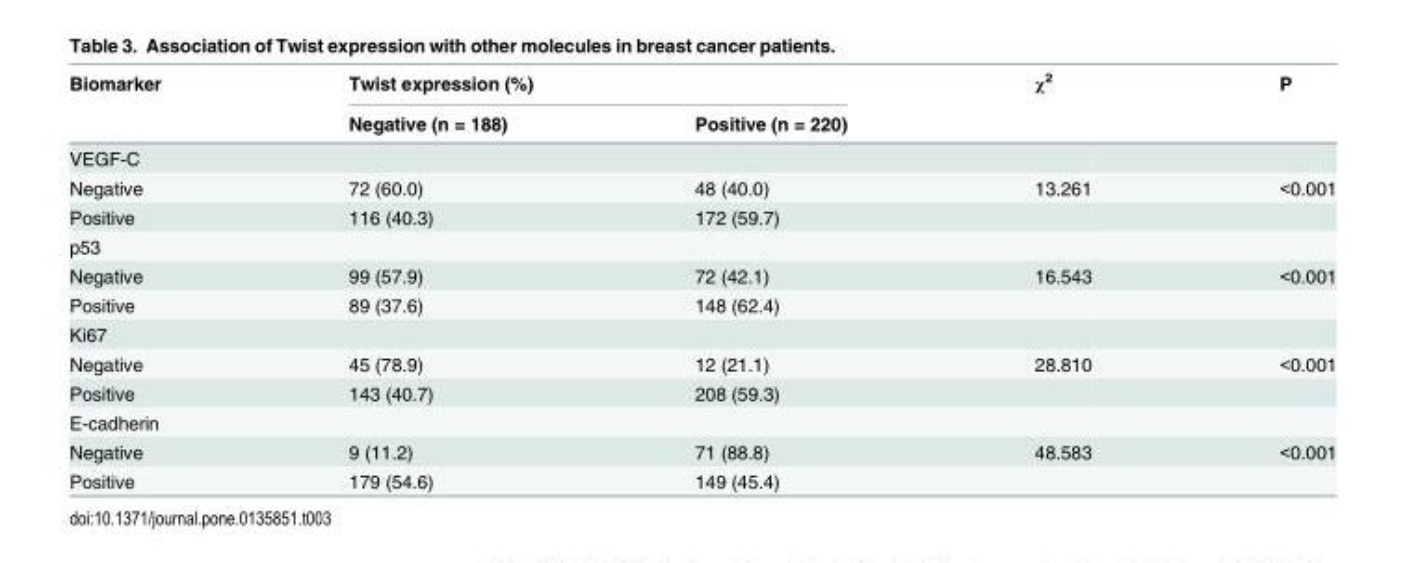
<table><thead><tr><td rowspan="2">Biomarker</td><td colspan="2">Twist expression (%)</td><td rowspan="2">χ<sup>2</sup></td><td rowspan="2">P</td></tr><tr><td>Negative (n = 188)</td><td>Positive (n = 220)</td></tr></thead><tbody><tr><td colspan="5">VEGF-C</td></tr><tr><td>Negative</td><td>72 (60.0)</td><td>48 (40.0)</td><td>13.261</td><td>&lt;0.001</td></tr><tr><td>Positive</td><td>116 (40.3)</td><td>172 (59.7)</td><td></td><td></td></tr><tr><td colspan="5">p53</td></tr><tr><td>Negative</td><td>99 (57.9)</td><td>72 (42.1)</td><td>16.543</td><td>&lt;0.001</td></tr><tr><td>Positive</td><td>89 (37.6)</td><td>148 (62.4)</td><td></td><td></td></tr><tr><td colspan="5">Ki67</td></tr><tr><td>Negative</td><td>45 (78.9)</td><td>12 (21.1)</td><td>28.810</td><td>&lt;0.001</td></tr><tr><td>Positive</td><td>143 (40.7)</td><td>208 (59.3)</td><td></td><td></td></tr><tr><td colspan="5">E-cadherin</td></tr><tr><td>Negative</td><td>9 (11.2)</td><td>71 (88.8)</td><td>48.583</td><td>&lt;0.001</td></tr><tr><td>Positive</td><td>179 (54.6)</td><td>149 (45.4)</td><td></td><td></td></tr></tbody></table>